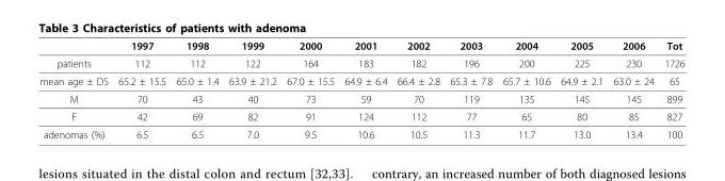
<table><thead><tr><td></td><td>1997</td><td>1998</td><td>1999</td><td>2000</td><td>2001</td><td>2002</td><td>2003</td><td>2004</td><td>2005</td><td>2006</td><td>Tot</td></tr></thead><tbody><tr><td>patients</td><td>112</td><td>112</td><td>122</td><td>164</td><td>183</td><td>182</td><td>196</td><td>200</td><td>225</td><td>230</td><td>1726</td></tr><tr><td>mean age ± DS</td><td>65.2 ± 15.5</td><td>65.0 ± 1.4</td><td>63.9 ± 21.2</td><td>67.0 ± 15.5</td><td>64.9 ± 6.4</td><td>66.4 ± 2.8</td><td>65.3 ± 7.8</td><td>65.7 ± 10.6</td><td>64.9 ± 2.1</td><td>63.0 ± 24</td><td>65</td></tr><tr><td>M</td><td>70</td><td>43</td><td>40</td><td>73</td><td>59</td><td>70</td><td>119</td><td>135</td><td>145</td><td>145</td><td>899</td></tr><tr><td>F</td><td>42</td><td>69</td><td>82</td><td>91</td><td>124</td><td>112</td><td>77</td><td>65</td><td>80</td><td>85</td><td>827</td></tr><tr><td>adenomas (%)</td><td>6.5</td><td>6.5</td><td>7.0</td><td>9.5</td><td>10.6</td><td>10.5</td><td>11.3</td><td>11.7</td><td>13.0</td><td>13.4</td><td>100</td></tr></tbody></table>